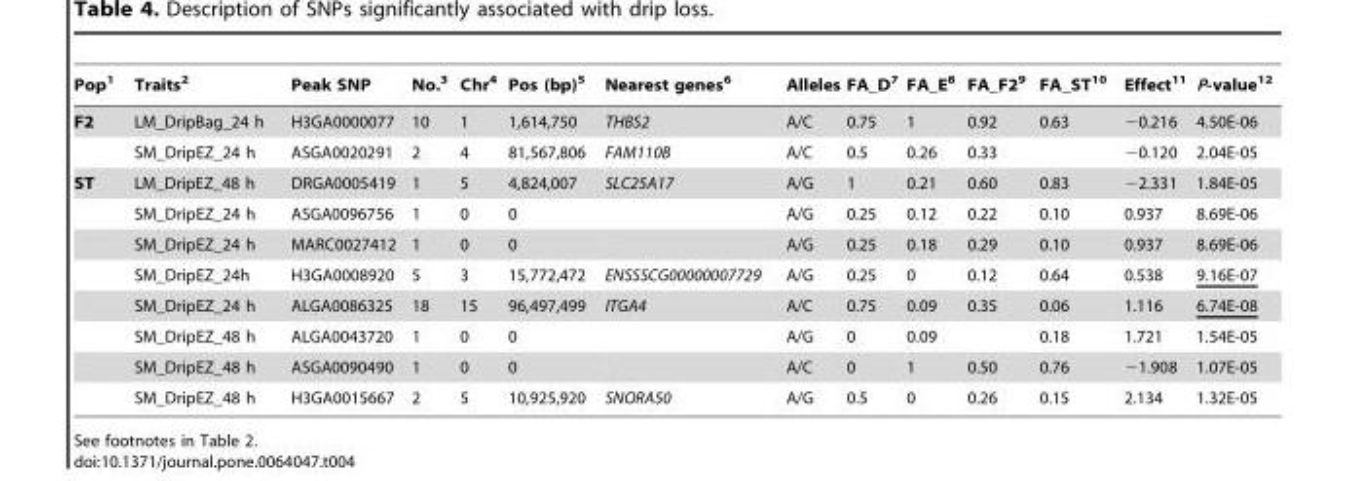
<table><thead><tr><td>Pop<sup>1</sup></td><td>Traits<sup>2</sup></td><td>Peak SNP</td><td>No.<sup>3</sup></td><td>Chr<sup>4</sup></td><td>Pos (bp)<sup>5</sup></td><td>Nearest genes<sup>6</sup></td><td>Alleles</td><td>FA_D<sup>7</sup></td><td>FA_E<sup>8</sup></td><td>FA_F2<sup>9</sup></td><td>FA_ST<sup>10</sup></td><td>Effect<sup>11</sup></td><td>P-value<sup>12</sup></td></tr></thead><tbody><tr><td rowspan="2">F2</td><td>LM_DripBag_24 h</td><td>H3GA0000077</td><td>10</td><td>1</td><td>1,614,750</td><td>THBS2</td><td>A/C</td><td>0.75</td><td>1</td><td>0.92</td><td>0.63</td><td>−0.216</td><td>4.50E-06</td></tr><tr><td>SM_DripEZ_24 h</td><td>ASGA0020291</td><td>2</td><td>4</td><td>81,567,806</td><td>FAM110B</td><td>A/C</td><td>0.5</td><td>0.26</td><td>0.33</td><td></td><td>−0.120</td><td>2.04E-05</td></tr><tr><td rowspan="8">ST</td><td>LM_DripEZ_48 h</td><td>DRGA0005419</td><td>1</td><td>5</td><td>4,824,007</td><td>SLC25A17</td><td>A/G</td><td>1</td><td>0.21</td><td>0.60</td><td>0.83</td><td>−2.331</td><td>1.84E-05</td></tr><tr><td>SM_DripEZ_24 h</td><td>ASGA0096756</td><td>1</td><td>0</td><td>0</td><td></td><td>A/G</td><td>0.25</td><td>0.12</td><td>0.22</td><td>0.10</td><td>0.937</td><td>8.69E-06</td></tr><tr><td>SM_DripEZ_24 h</td><td>MARC0027412</td><td>1</td><td>0</td><td>0</td><td></td><td>A/G</td><td>0.25</td><td>0.18</td><td>0.29</td><td>0.10</td><td>0.937</td><td>8.69E-06</td></tr><tr><td>SM_DripEZ_24h</td><td>H3GA0008920</td><td>5</td><td>3</td><td>15,772,472</td><td>ENSSSCG00000007729</td><td>A/G</td><td>0.25</td><td>0</td><td>0.12</td><td>0.64</td><td>0.538</td><td>9.16E-07</td></tr><tr><td>SM_DripEZ_24 h</td><td>ALGA0086325</td><td>18</td><td>15</td><td>96,497,499</td><td>ITGA4</td><td>A/C</td><td>0.75</td><td>0.09</td><td>0.35</td><td>0.06</td><td>1.116</td><td>6.74E-08</td></tr><tr><td>SM_DripEZ_48 h</td><td>ALGA0043720</td><td>1</td><td>0</td><td>0</td><td></td><td>A/G</td><td>0</td><td>0.09</td><td></td><td>0.18</td><td>1.721</td><td>1.54E-05</td></tr><tr><td>SM_DripEZ_48 h</td><td>ASGA0090490</td><td>1</td><td>0</td><td>0</td><td></td><td>A/C</td><td>0</td><td>1</td><td>0.50</td><td>0.76</td><td>−1.908</td><td>1.07E-05</td></tr><tr><td>SM_DripEZ_48 h</td><td>H3GA0015667</td><td>2</td><td>5</td><td>10,925,920</td><td>SNORA50</td><td>A/G</td><td>0.5</td><td>0</td><td>0.26</td><td>0.15</td><td>2.134</td><td>1.32E-05</td></tr></tbody></table>